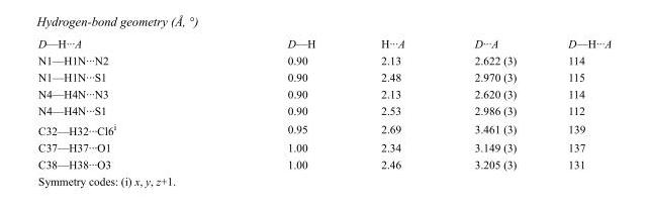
<table><tbody><tr><td>D—H···A</td><td>D—H</td><td>H···A</td><td>D···A</td><td>D—H···A</td></tr><tr><td>N1—H1N···N2</td><td>0.90</td><td>2.13</td><td>2.622 (3)</td><td>114</td></tr><tr><td>N1—H1N···S1</td><td>0.90</td><td>2.48</td><td>2.970 (3)</td><td>115</td></tr><tr><td>N4—H4N···N3</td><td>0.90</td><td>2.13</td><td>2.620 (3)</td><td>114</td></tr><tr><td>N4—H4N···S1</td><td>0.90</td><td>2.53</td><td>2.986 (3)</td><td>112</td></tr><tr><td>C32—H32···Cl6<sup>i</sup></td><td>0.95</td><td>2.69</td><td>3.461 (3)</td><td>139</td></tr><tr><td>C37—H37···O1</td><td>1.00</td><td>2.34</td><td>3.149 (3)</td><td>137</td></tr><tr><td>C38—H38···O3</td><td>1.00</td><td>2.46</td><td>3.205 (3)</td><td>131</td></tr></tbody></table>